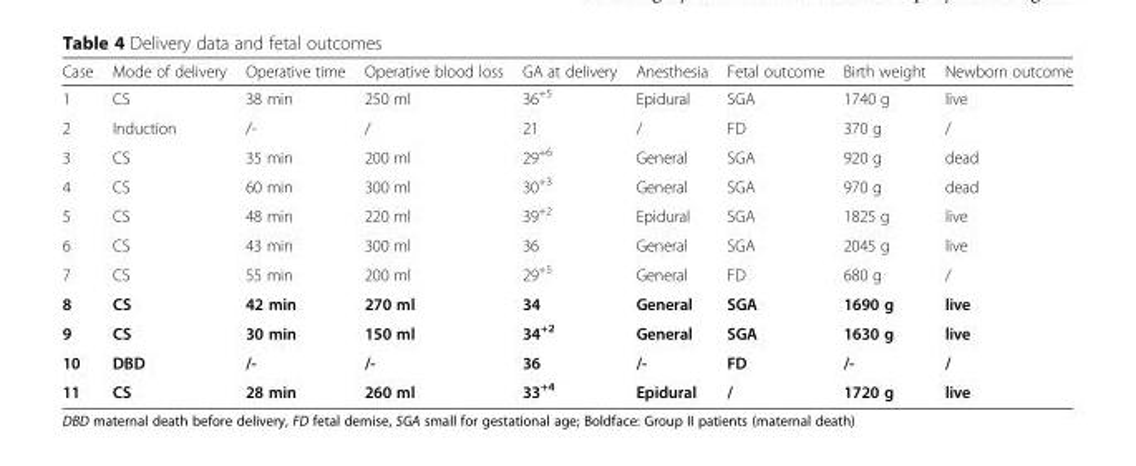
<table><thead><tr><td>Case</td><td>Mode of delivery</td><td>Operative time</td><td>Operative blood loss</td><td>GA at delivery</td><td>Anesthesia</td><td>Fetal outcome</td><td>Birth weight</td><td>Newborn outcome</td></tr></thead><tbody><tr><td>1</td><td>CS</td><td>38 min</td><td>250 ml</td><td>36<sup>+5</sup></td><td>Epidural</td><td>SGA</td><td>1740 g</td><td>live</td></tr><tr><td>2</td><td>Induction</td><td>/-</td><td>/</td><td>21</td><td>/</td><td>FD</td><td>370 g</td><td>/</td></tr><tr><td>3</td><td>CS</td><td>35 min</td><td>200 ml</td><td>29<sup>+6</sup></td><td>General</td><td>SGA</td><td>920 g</td><td>dead</td></tr><tr><td>4</td><td>CS</td><td>60 min</td><td>300 ml</td><td>30<sup>+3</sup></td><td>General</td><td>SGA</td><td>970 g</td><td>dead</td></tr><tr><td>5</td><td>CS</td><td>48 min</td><td>220 ml</td><td>39<sup>+2</sup></td><td>Epidural</td><td>SGA</td><td>1825 g</td><td>live</td></tr><tr><td>6</td><td>CS</td><td>43 min</td><td>300 ml</td><td>36</td><td>General</td><td>SGA</td><td>2045 g</td><td>live</td></tr><tr><td>7</td><td>CS</td><td>55 min</td><td>200 ml</td><td>29<sup>+5</sup></td><td>General</td><td>FD</td><td>680 g</td><td>/</td></tr><tr><td>8</td><td>CS</td><td>42 min</td><td>270 ml</td><td>34</td><td>General</td><td>SGA</td><td>1690 g</td><td>live</td></tr><tr><td>9</td><td>CS</td><td>30 min</td><td>150 ml</td><td>34<sup>+2</sup></td><td>General</td><td>SGA</td><td>1630 g</td><td>live</td></tr><tr><td>10</td><td>DBD</td><td>/-</td><td>/-</td><td>36</td><td>/-</td><td>FD</td><td>/-</td><td>/</td></tr><tr><td>11</td><td>CS</td><td>28 min</td><td>260 ml</td><td>33<sup>+4</sup></td><td>Epidural</td><td>/</td><td>1720 g</td><td>live</td></tr></tbody></table>